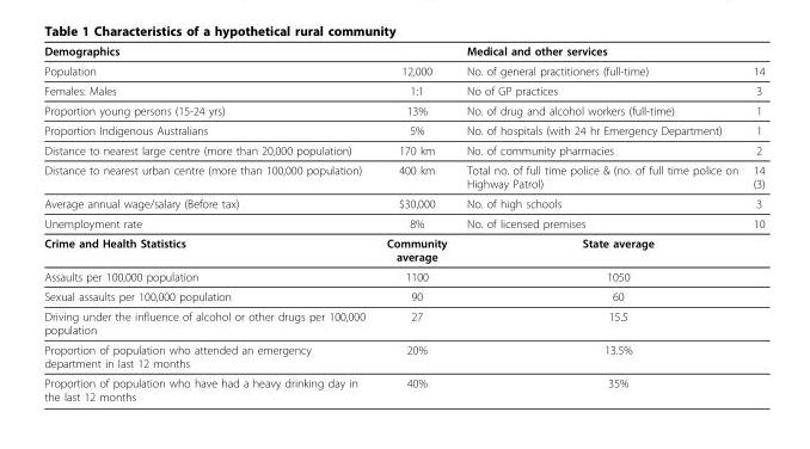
<table><thead><tr><td>Demographics</td><td></td><td>Medical and other services</td><td></td></tr></thead><tbody><tr><td>Population</td><td>12,000</td><td>No. of general practitioners (full-time)</td><td>14</td></tr><tr><td>Females: Males</td><td>1:1</td><td>No of GP practices</td><td>3</td></tr><tr><td>Proportion young persons (15-24 yrs)</td><td>13%</td><td>No. of drug and alcohol workers (full-time)</td><td>1</td></tr><tr><td>Proportion Indigenous Australians</td><td>5%</td><td>No. of hospitals (with 24 hr Emergency Department)</td><td>1</td></tr><tr><td>Distance to nearest large centre (more than 20,000 population)</td><td>170 km</td><td>No. of community pharmacies</td><td>2</td></tr><tr><td>Distance to nearest urban centre (more than 100,000 population)</td><td>400 km</td><td>Total no. of full time police &amp; (no. of full time police on Highway Patrol)</td><td>14 (3)</td></tr><tr><td>Average annual wage/salary (Before tax)</td><td>$30,000</td><td>No. of high schools</td><td>3</td></tr><tr><td>Unemployment rate</td><td>8%</td><td>No. of licensed premises</td><td>10</td></tr><tr><td>Crime and Health Statistics</td><td>Community average</td><td colspan="2">State average</td></tr><tr><td>Assaults per 100,000 population</td><td>1100</td><td colspan="2">1050</td></tr><tr><td>Sexual assaults per 100,000 population</td><td>90</td><td colspan="2">60</td></tr><tr><td>Driving under the influence of alcohol or other drugs per 100,000 population</td><td>27</td><td colspan="2">15.5</td></tr><tr><td>Proportion of population who attended an emergency department in last 12 months</td><td>20%</td><td colspan="2">13.5%</td></tr><tr><td>Proportion of population who have had a heavy drinking day in the last 12 months</td><td>40%</td><td colspan="2">35%</td></tr></tbody></table>